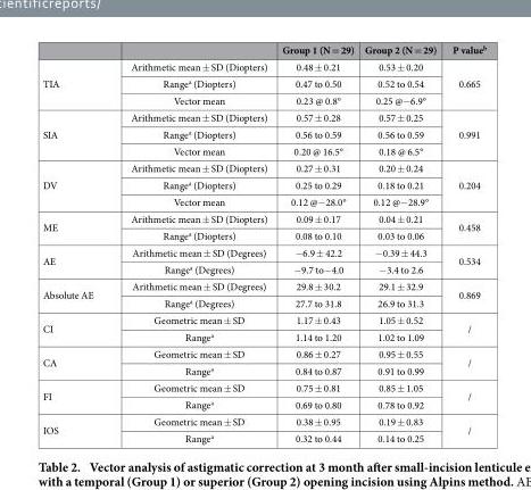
<table><thead><tr><td></td><td></td><td>Group 1 (N = 29)</td><td>Group 2 (N = 29)</td><td>P value<sup>b</sup></td></tr></thead><tbody><tr><td rowspan="3">TIA</td><td>Arithmetic mean ± SD (Diopters)</td><td>0.48 ± 0.21</td><td>0.53 ± 0.20</td><td rowspan="3">0.665</td></tr><tr><td>Range<sup>a</sup> (Diopters)</td><td>0.47 to 0.50</td><td>0.52 to 0.54</td></tr><tr><td>Vector mean</td><td>0.23 @ 0.8°</td><td>0.25 @− 6.9°</td></tr><tr><td rowspan="3">SIA</td><td>Arithmetic mean ± SD (Diopters)</td><td>0.57 ± 0.28</td><td>0.57 ± 0.25</td><td rowspan="3">0.991</td></tr><tr><td>Range<sup>a</sup> (Diopters)</td><td>0.56 to 0.59</td><td>0.56 to 0.59</td></tr><tr><td>Vector mean</td><td>0.20 @ 16.5°</td><td>0.18 @ 6.5°</td></tr><tr><td rowspan="3">DV</td><td>Arithmetic mean ± SD (Diopters)</td><td>0.27 ± 0.31</td><td>0.20 ± 0.24</td><td rowspan="3">0.204</td></tr><tr><td>Range<sup>a</sup> (Diopters)</td><td>0.25 to 0.29</td><td>0.18 to 0.21</td></tr><tr><td>Vector mean</td><td>0.12 @− 28.0°</td><td>0.12 @− 28.9°</td></tr><tr><td rowspan="2">ME</td><td>Arithmetic mean ± SD (Diopters)</td><td>0.09 ± 0.17</td><td>0.04 ± 0.21</td><td rowspan="2">0.458</td></tr><tr><td>Range<sup>a</sup> (Diopters)</td><td>0.08 to 0.10</td><td>0.03 to 0.06</td></tr><tr><td rowspan="2">AE</td><td>Arithmetic mean ± SD (Degrees)</td><td>− 6.9 ± 42.2</td><td>− 0.39 ± 44.3</td><td rowspan="2">0.534</td></tr><tr><td>Range<sup>a</sup> (Degrees)</td><td>− 9.7 to− 4.0</td><td>− 3.4 to 2.6</td></tr><tr><td rowspan="2">Absolute AE</td><td>Arithmetic mean ± SD (Degrees)</td><td>29.8 ± 30.2</td><td>29.1 ± 32.9</td><td rowspan="2">0.869</td></tr><tr><td>Range<sup>a</sup> (Degrees)</td><td>27.7 to 31.8</td><td>26.9 to 31.3</td></tr><tr><td rowspan="2">CI</td><td>Geometric mean ± SD</td><td>1.17 ± 0.43</td><td>1.05 ± 0.52</td><td rowspan="2">/</td></tr><tr><td>Range<sup>a</sup></td><td>1.14 to 1.20</td><td>1.02 to 1.09</td></tr><tr><td rowspan="2">CA</td><td>Geometric mean ± SD</td><td>0.86 ± 0.27</td><td>0.95 ± 0.55</td><td rowspan="2">/</td></tr><tr><td>Range<sup>a</sup></td><td>0.84 to 0.87</td><td>0.91 to 0.99</td></tr><tr><td rowspan="2">FI</td><td>Geometric mean ± SD</td><td>0.75 ± 0.81</td><td>0.85 ± 1.05</td><td rowspan="2">/</td></tr><tr><td>Range<sup>a</sup></td><td>0.69 to 0.80</td><td>0.78 to 0.92</td></tr><tr><td rowspan="2">IOS</td><td>Geometric mean ± SD</td><td>0.38 ± 0.95</td><td>0.19 ± 0.83</td><td rowspan="2">/</td></tr><tr><td>Range<sup>a</sup></td><td>0.32 to 0.44</td><td>0.14 to 0.25</td></tr></tbody></table>